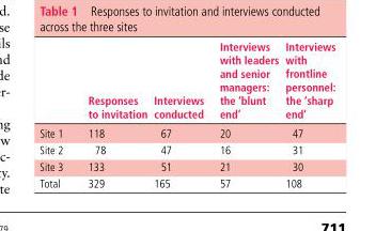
<table><thead><tr><td></td><td>Responses to invitation</td><td>Interviews conducted</td><td>Interviews with leaders and senior managers: the ‘blunt end’</td><td>Interviews with frontline personnel: the ‘sharp end’</td></tr></thead><tbody><tr><td>Site 1</td><td>118</td><td>67</td><td>20</td><td>47</td></tr><tr><td>Site 2</td><td>78</td><td>47</td><td>16</td><td>31</td></tr><tr><td>Site 3</td><td>133</td><td>51</td><td>21</td><td>30</td></tr><tr><td>Total</td><td>329</td><td>165</td><td>57</td><td>108</td></tr></tbody></table>